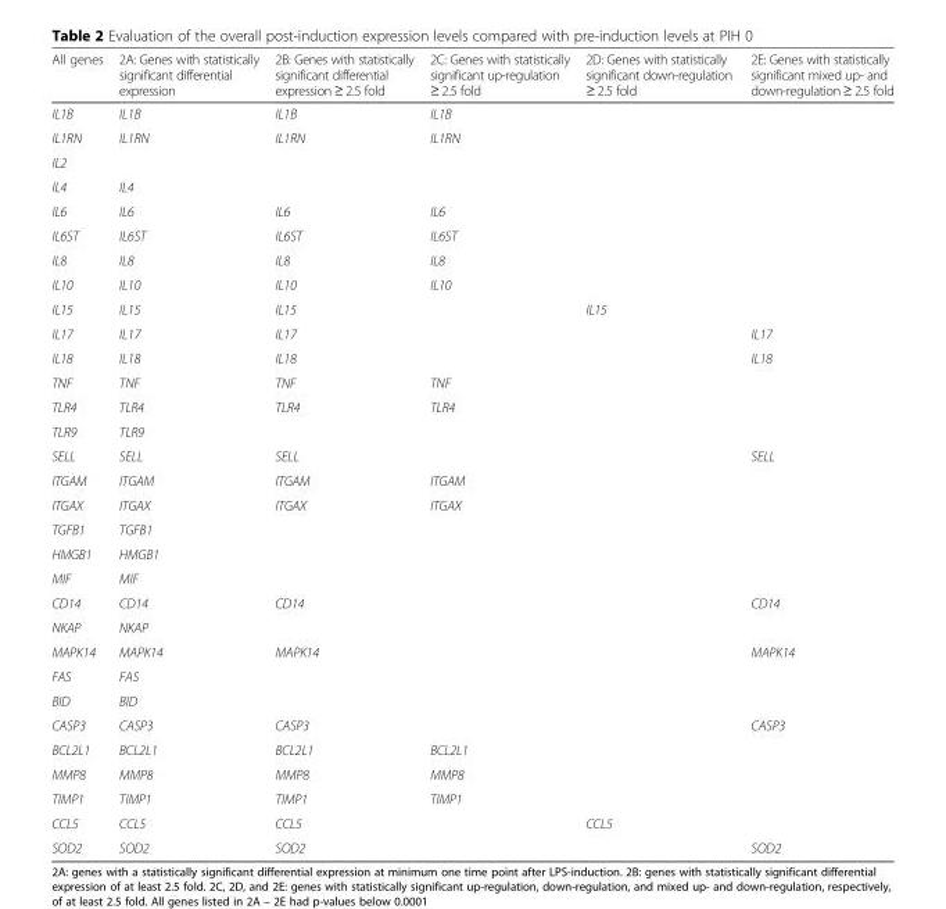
<table><thead><tr><td>All genes</td><td>2A: Genes with statistically significant differential expression</td><td>2B: Genes with statistically significant differential expression ≥ 2.5 fold</td><td>2C: Genes with statistically significant up-regulation ≥ 2.5 fold</td><td>2D: Genes with statistically significant down-regulation ≥ 2.5 fold</td><td>2E: Genes with statistically significant mixed up- and down-regulation ≥ 2.5 fold</td></tr></thead><tbody><tr><td>IL1B</td><td>IL1B</td><td>IL1B</td><td>IL1B</td><td></td><td></td></tr><tr><td>IL1RN</td><td>IL1RN</td><td>IL1RN</td><td>IL1RN</td><td></td><td></td></tr><tr><td colspan="6">IL2</td></tr><tr><td>IL4</td><td>IL4</td><td></td><td></td><td></td><td></td></tr><tr><td>IL6</td><td>IL6</td><td>IL6</td><td>IL6</td><td></td><td></td></tr><tr><td>IL6ST</td><td>IL6ST</td><td>IL6ST</td><td>IL6ST</td><td></td><td></td></tr><tr><td>IL8</td><td>IL8</td><td>IL8</td><td>IL8</td><td></td><td></td></tr><tr><td>IL10</td><td>IL10</td><td>IL10</td><td>IL10</td><td></td><td></td></tr><tr><td>IL15</td><td>IL15</td><td>IL15</td><td></td><td>IL15</td><td></td></tr><tr><td>IL17</td><td>IL17</td><td>IL17</td><td></td><td></td><td>IL17</td></tr><tr><td>IL18</td><td>IL18</td><td>IL18</td><td></td><td></td><td>IL18</td></tr><tr><td>TNF</td><td>TNF</td><td>TNF</td><td>TNF</td><td></td><td></td></tr><tr><td>TLR4</td><td>TLR4</td><td>TLR4</td><td>TLR4</td><td></td><td></td></tr><tr><td>TLR9</td><td>TLR9</td><td></td><td></td><td></td><td></td></tr><tr><td>SELL</td><td>SELL</td><td>SELL</td><td></td><td></td><td>SELL</td></tr><tr><td>ITGAM</td><td>ITGAM</td><td>ITGAM</td><td>ITGAM</td><td></td><td></td></tr><tr><td>ITGAX</td><td>ITGAX</td><td>ITGAX</td><td>ITGAX</td><td></td><td></td></tr><tr><td>TGFB1</td><td>TGFB1</td><td></td><td></td><td></td><td></td></tr><tr><td>HMGB1</td><td>HMGB1</td><td></td><td></td><td></td><td></td></tr><tr><td>MIF</td><td>MIF</td><td></td><td></td><td></td><td></td></tr><tr><td>CD14</td><td>CD14</td><td>CD14</td><td></td><td></td><td>CD14</td></tr><tr><td>NKAP</td><td>NKAP</td><td></td><td></td><td></td><td></td></tr><tr><td>MAPK14</td><td>MAPK14</td><td>MAPK14</td><td></td><td></td><td>MAPK14</td></tr><tr><td>FAS</td><td>FAS</td><td></td><td></td><td></td><td></td></tr><tr><td>BID</td><td>BID</td><td></td><td></td><td></td><td></td></tr><tr><td>CASP3</td><td>CASP3</td><td>CASP3</td><td></td><td></td><td>CASP3</td></tr><tr><td>BCL2L1</td><td>BCL2L1</td><td>BCL2L1</td><td>BCL2L1</td><td></td><td></td></tr><tr><td>MMP8</td><td>MMP8</td><td>MMP8</td><td>MMP8</td><td></td><td></td></tr><tr><td>TIMP1</td><td>TIMP1</td><td>TIMP1</td><td>TIMP1</td><td></td><td></td></tr><tr><td>CCL5</td><td>CCL5</td><td>CCL5</td><td></td><td>CCL5</td><td></td></tr><tr><td>SOD2</td><td>SOD2</td><td>SOD2</td><td></td><td></td><td>SOD2</td></tr></tbody></table>